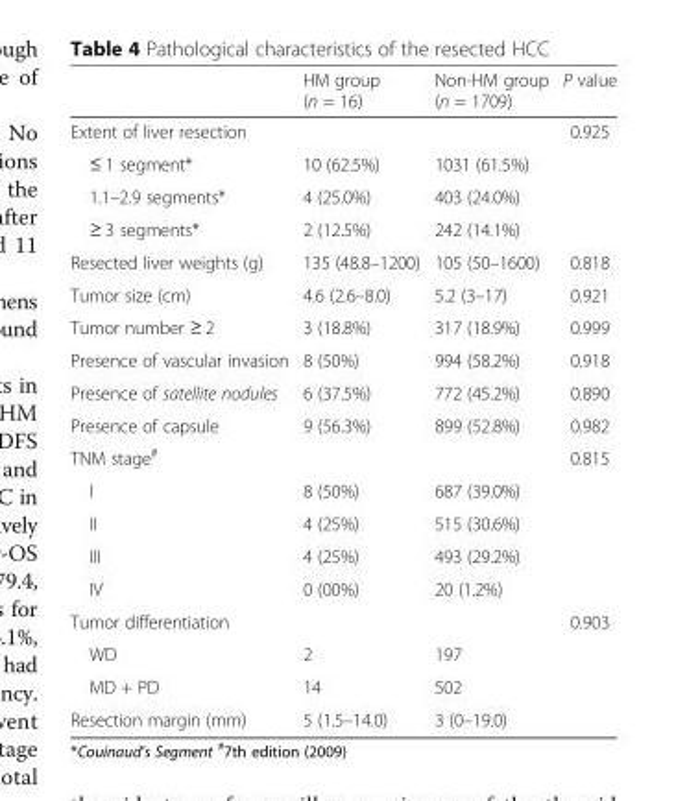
<table><thead><tr><td></td><td>HM group (n = 16)</td><td>Non-HM group (n = 1709)</td><td>P value</td></tr></thead><tbody><tr><td>Extent of liver resection</td><td></td><td></td><td>0.925</td></tr><tr><td>≤ 1 segment*</td><td>10 (62.5%)</td><td>1031 (61.5%)</td><td></td></tr><tr><td>1.1–2.9 segments*</td><td>4 (25.0%)</td><td>403 (24.0%)</td><td></td></tr><tr><td>≥ 3 segments*</td><td>2 (12.5%)</td><td>242 (14.1%)</td><td></td></tr><tr><td>Resected liver weights (g)</td><td>135 (48.8–1200)</td><td>105 (50–1600)</td><td>0.818</td></tr><tr><td>Tumor size (cm)</td><td>4.6 (2.6–8.0)</td><td>5.2 (3–17)</td><td>0.921</td></tr><tr><td>Tumor number ≥ 2</td><td>3 (18.8%)</td><td>317 (18.9%)</td><td>0.999</td></tr><tr><td>Presence of vascular invasion</td><td>8 (50%)</td><td>994 (58.2%)</td><td>0.918</td></tr><tr><td>Presence of satellite nodules</td><td>6 (37.5%)</td><td>772 (45.2%)</td><td>0.890</td></tr><tr><td>Presence of capsule</td><td>9 (56.3%)</td><td>899 (52.8%)</td><td>0.982</td></tr><tr><td>TNM stage<sup>#</sup></td><td></td><td></td><td>0.815</td></tr><tr><td>I</td><td>8 (50%)</td><td>687 (39.0%)</td><td></td></tr><tr><td>II</td><td>4 (25%)</td><td>515 (30.6%)</td><td></td></tr><tr><td>III</td><td>4 (25%)</td><td>493 (29.2%)</td><td></td></tr><tr><td>IV</td><td>0 (00%)</td><td>20 (1.2%)</td><td></td></tr><tr><td>Tumor differentiation</td><td></td><td></td><td>0.903</td></tr><tr><td>WD</td><td>2</td><td>197</td><td></td></tr><tr><td>MD + PD</td><td>14</td><td>502</td><td></td></tr><tr><td>Resection margin (mm)</td><td>5 (1.5–14.0)</td><td>3 (0–19.0)</td><td></td></tr></tbody></table>